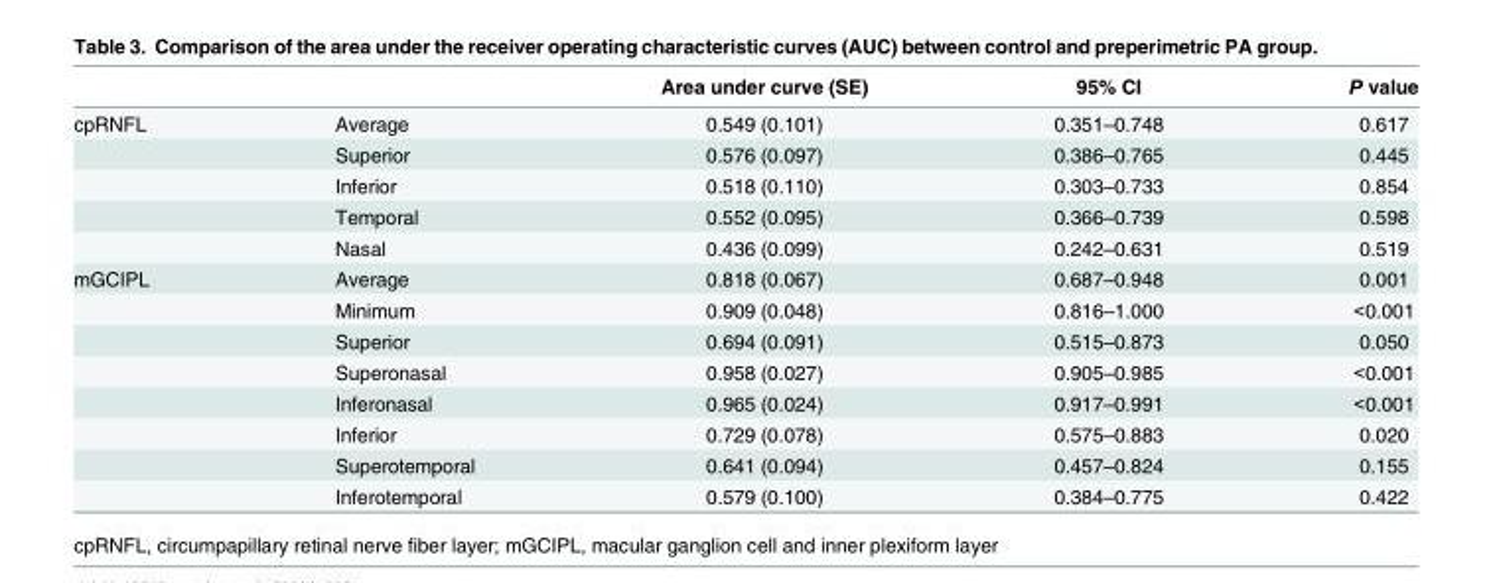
<table><thead><tr><td></td><td></td><td>Area under curve (SE)</td><td>95% CI</td><td>P value</td></tr></thead><tbody><tr><td rowspan="5">cpRNFL</td><td>Average</td><td>0.549 (0.101)</td><td>0.351–0.748</td><td>0.617</td></tr><tr><td>Superior</td><td>0.576 (0.097)</td><td>0.386–0.765</td><td>0.445</td></tr><tr><td>Inferior</td><td>0.518 (0.110)</td><td>0.303–0.733</td><td>0.854</td></tr><tr><td>Temporal</td><td>0.552 (0.095)</td><td>0.366–0.739</td><td>0.598</td></tr><tr><td>Nasal</td><td>0.436 (0.099)</td><td>0.242–0.631</td><td>0.519</td></tr><tr><td rowspan="8">mGCIPL</td><td>Average</td><td>0.818 (0.067)</td><td>0.687–0.948</td><td>0.001</td></tr><tr><td>Minimum</td><td>0.909 (0.048)</td><td>0.816–1.000</td><td>&lt;0.001</td></tr><tr><td>Superior</td><td>0.694 (0.091)</td><td>0.515–0.873</td><td>0.050</td></tr><tr><td>Superonasal</td><td>0.958 (0.027)</td><td>0.905–0.985</td><td>&lt;0.001</td></tr><tr><td>Inferonasal</td><td>0.965 (0.024)</td><td>0.917–0.991</td><td>&lt;0.001</td></tr><tr><td>Inferior</td><td>0.729 (0.078)</td><td>0.575–0.883</td><td>0.020</td></tr><tr><td>Superotemporal</td><td>0.641 (0.094)</td><td>0.457–0.824</td><td>0.155</td></tr><tr><td>Inferotemporal</td><td>0.579 (0.100)</td><td>0.384–0.775</td><td>0.422</td></tr></tbody></table>